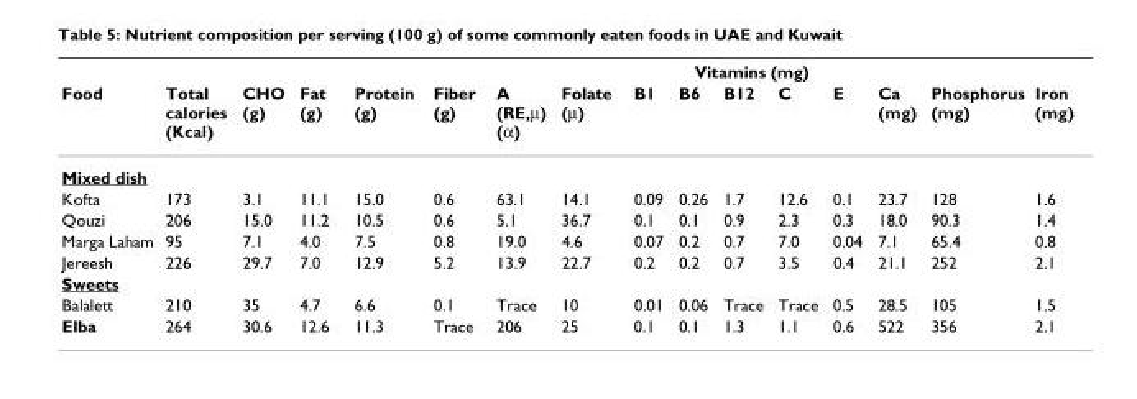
<table><thead><tr><td rowspan="2">Food</td><td rowspan="2">Total calories (Kcal)</td><td rowspan="2">CHO (g)</td><td rowspan="2">Fat (g)</td><td rowspan="2">Protein (g)</td><td rowspan="2">Fiber (g)</td><td rowspan="2">A (RE,µ) (α)</td><td rowspan="2">Folate (µ)</td><td colspan="5">Vitamins (mg)</td><td rowspan="2">Ca (mg)</td><td rowspan="2">Phosphorus (mg)</td><td rowspan="2">Iron (mg)</td></tr><tr><td>B1</td><td>B6</td><td>B12</td><td>C</td><td>E</td></tr></thead><tbody><tr><td colspan="16">Mixed dish</td></tr><tr><td>Kofta</td><td>173</td><td>3.1</td><td>11.1</td><td>15.0</td><td>0.6</td><td>63.1</td><td>14.1</td><td>0.09</td><td>0.26</td><td>1.7</td><td>12.6</td><td>0.1</td><td>23.7</td><td>128</td><td>1.6</td></tr><tr><td>Qouzi</td><td>206</td><td>15.0</td><td>11.2</td><td>10.5</td><td>0.6</td><td>5.1</td><td>36.7</td><td>0.1</td><td>0.1</td><td>0.9</td><td>2.3</td><td>0.3</td><td>18.0</td><td>90.3</td><td>1.4</td></tr><tr><td>Marga Laham</td><td>95</td><td>7.1</td><td>4.0</td><td>7.5</td><td>0.8</td><td>19.0</td><td>4.6</td><td>0.07</td><td>0.2</td><td>0.7</td><td>7.0</td><td>0.04</td><td>7.1</td><td>65.4</td><td>0.8</td></tr><tr><td>Jereesh</td><td>226</td><td>29.7</td><td>7.0</td><td>12.9</td><td>5.2</td><td>13.9</td><td>22.7</td><td>0.2</td><td>0.2</td><td>0.7</td><td>3.5</td><td>0.4</td><td>21.1</td><td>252</td><td>2.1</td></tr><tr><td colspan="16">Sweets</td></tr><tr><td>Balalett</td><td>210</td><td>35</td><td>4.7</td><td>6.6</td><td>0.1</td><td>Trace</td><td>10</td><td>0.01</td><td>0.06</td><td>Trace</td><td>Trace</td><td>0.5</td><td>28.5</td><td>105</td><td>1.5</td></tr><tr><td>Elba</td><td>264</td><td>30.6</td><td>12.6</td><td>11.3</td><td>Trace</td><td>206</td><td>25</td><td>0.1</td><td>0.1</td><td>1.3</td><td>1.1</td><td>0.6</td><td>522</td><td>356</td><td>2.1</td></tr></tbody></table>